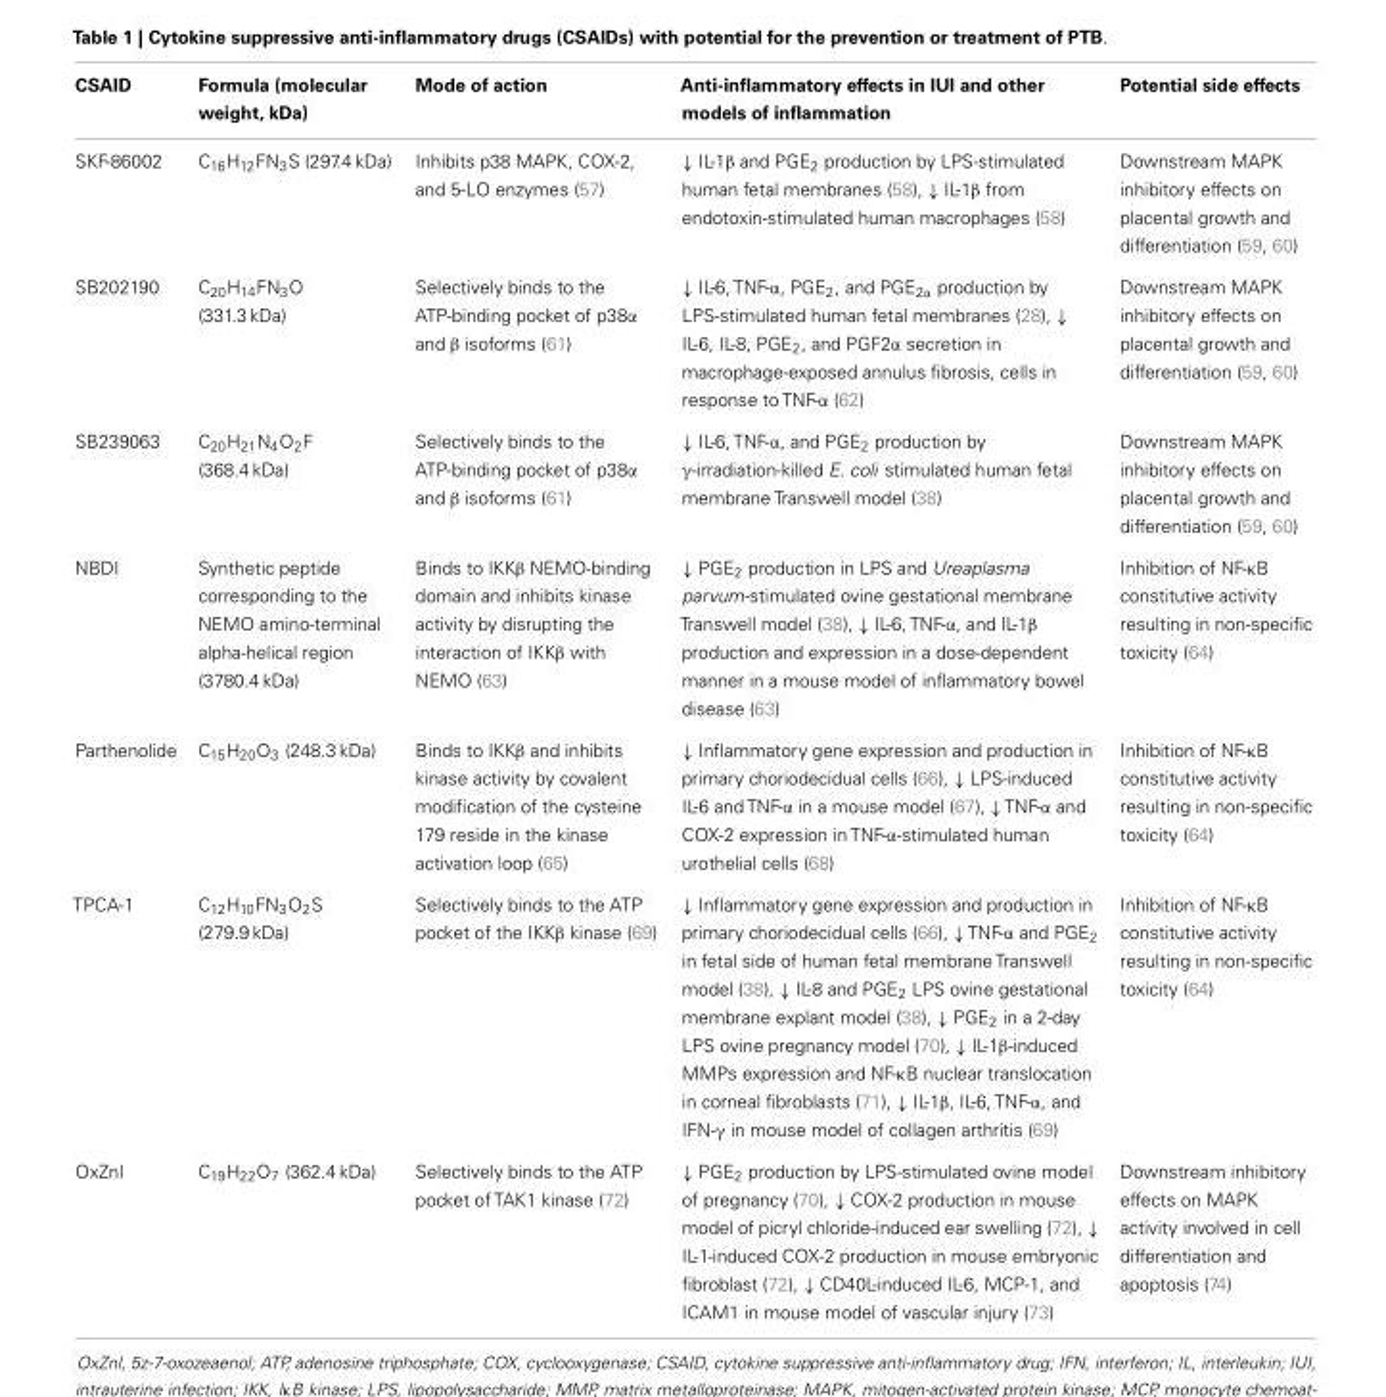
<table><thead><tr><td>CSAID</td><td>Formula (molecular weight, kDa)</td><td>Mode of action</td><td>Anti-inflammatory effects in IUI and other models of inflammation</td><td>Potential side effects</td></tr></thead><tbody><tr><td>SKF-86002</td><td>C<sub>16</sub>H<sub>12</sub>FN<sub>3</sub>S (297.4 kDa)</td><td>Inhibits p38 MAPK, COX-2, and 5-LO enzymes (57)</td><td>↓ IL-1β and PGE<sub>2</sub> production by LPS-stimulated human fetal membranes (58), ↓ IL-1β from endotoxin-stimulated human macrophages (58)</td><td>Downstream MAPK inhibitory effects on placental growth and differentiation (59, 60)</td></tr><tr><td>SB202190</td><td>C<sub>20</sub>H<sub>14</sub>FN<sub>3</sub>O (331.3 kDa)</td><td>Selectively binds to the ATP-binding pocket of p38α and β isoforms (61)</td><td>↓ IL-6, TNF-α, PGE<sub>2</sub>, and PGE<sub>2α</sub> production by LPS-stimulated human fetal membranes (28), ↓ IL-6, IL-8, PGE<sub>2</sub>, and PGF2α secretion in macrophage-exposed annulus fibrosis, cells in response to TNF-α (62)</td><td>Downstream MAPK inhibitory effects on placental growth and differentiation (59, 60)</td></tr><tr><td>SB239063</td><td>C<sub>20</sub>H<sub>21</sub>N<sub>4</sub>O<sub>2</sub>F (368.4 kDa)</td><td>Selectively binds to the ATP-binding pocket of p38α and β isoforms (61)</td><td>↓ IL-6, TNF-α, and PGE<sub>2</sub> production by γ-irradiation-killed E. coli stimulated human fetal membrane Transwell model (38)</td><td>Downstream MAPK inhibitory effects on placental growth and differentiation (59, 60)</td></tr><tr><td>NBDI</td><td>Synthetic peptide corresponding to the NEMO amino-terminal alpha-helical region (3780.4 kDa)</td><td>Binds to IKKβ NEMO-binding domain and inhibits kinase activity by disrupting the interaction of IKKβ with NEMO (63)</td><td>↓ PGE<sub>2</sub> production in LPS and Ureaplasma parvum-stimulated ovine gestational membrane Transwell model (38), ↓ IL-6, TNF-α, and IL-1β production and expression in a dose-dependent manner in a mouse model of inflammatory bowel disease (63)</td><td>Inhibition of NF-κB constitutive activity resulting in non-specific toxicity (64)</td></tr><tr><td>Parthenolide</td><td>C<sub>15</sub>H<sub>20</sub>O<sub>3</sub> (248.3 kDa)</td><td>Binds to IKKβ and inhibits kinase activity by covalent modification of the cysteine 179 reside in the kinase activation loop (65)</td><td>↓ Inflammatory gene expression and production in primary choriodecidual cells (66), ↓ LPS-induced IL-6 and TNF-α in a mouse model (67), ↓ TNF-α and COX-2 expression in TNF-α-stimulated human urothelial cells (68)</td><td>Inhibition of NF-κB constitutive activity resulting in non-specific toxicity (64)</td></tr><tr><td>TPCA-1</td><td>C<sub>12</sub>H<sub>10</sub>FN<sub>3</sub>O<sub>2</sub>S (279.9 kDa)</td><td>Selectively binds to the ATP pocket of the IKKβ kinase (69)</td><td>↓ Inflammatory gene expression and production in primary choriodecidual cells (66), ↓ TNF-α and PGE<sub>2</sub> in fetal side of human fetal membrane Transwell model (38), ↓ IL-8 and PGE<sub>2</sub> LPS ovine gestational membrane explant model (38), ↓ PGE<sub>2</sub> in a 2-day LPS ovine pregnancy model (70), ↓ IL-1β-induced MMPs expression and NF-κB nuclear translocation in corneal fibroblasts (71), ↓ IL-1β, IL-6, TNF-α, and IFN-γ in mouse model of collagen arthritis (69)</td><td>Inhibition of NF-κB constitutive activity resulting in non-specific toxicity (64)</td></tr><tr><td>OxZnl</td><td>C<sub>19</sub>H<sub>22</sub>O<sub>7</sub> (362.4 kDa)</td><td>Selectively binds to the ATP pocket of TAK1 kinase (72)</td><td>↓ PGE<sub>2</sub> production by LPS-stimulated ovine model of pregnancy (70), ↓ COX-2 production in mouse model of picryl chloride-induced ear swelling (72), ↓ IL-1-induced COX-2 production in mouse embryonic fibroblast (72), ↓ CD40L-induced IL-6, MCP-1, and ICAM1 in mouse model of vascular injury (73)</td><td>Downstream inhibitory effects on MAPK activity involved in cell differentiation and apoptosis (74)</td></tr></tbody></table>